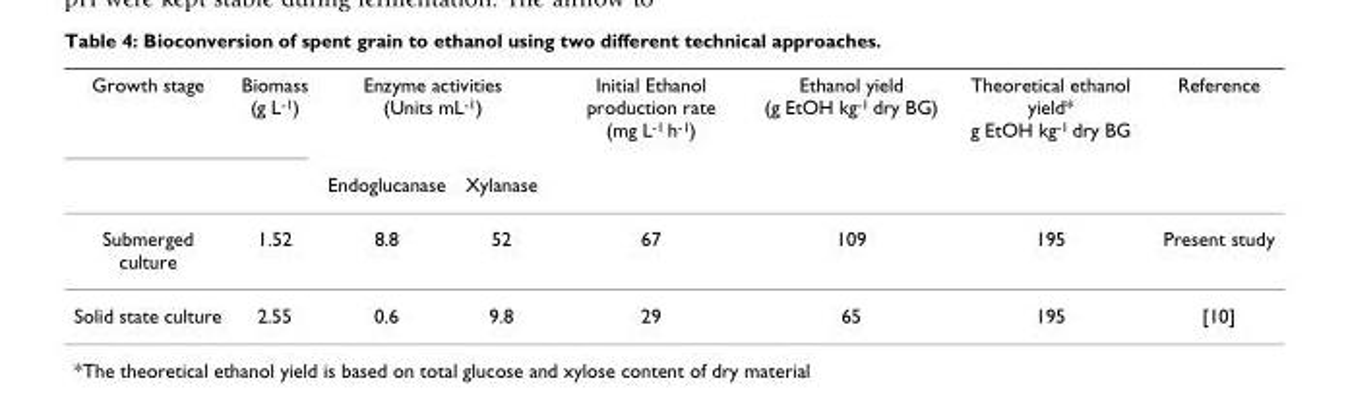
<table><thead><tr><td rowspan="2">Growth stage</td><td rowspan="2">Biomass (g L<sup>-1</sup>)</td><td colspan="2">Enzyme activities (Units mL<sup>-1</sup>)</td><td rowspan="2">Initial Ethanol production rate (mg L<sup>-1</sup> h<sup>-1</sup>)</td><td rowspan="2">Ethanol yield (g EtOH kg<sup>-1</sup> dry BG)</td><td rowspan="2">Theoretical ethanol yield* g EtOH kg<sup>-1</sup> dry BG</td><td rowspan="2">Reference</td></tr><tr><td>Endoglucanase</td><td>Xylanase</td></tr></thead><tbody><tr><td>Submerged culture</td><td>1.52</td><td>8.8</td><td>52</td><td>67</td><td>109</td><td>195</td><td>Present study</td></tr><tr><td>Solid state culture</td><td>2.55</td><td>0.6</td><td>9.8</td><td>29</td><td>65</td><td>195</td><td>[10]</td></tr></tbody></table>